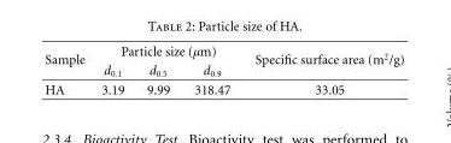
<table><thead><tr><td rowspan="2">Sample</td><td colspan="3">Particle size (μm)</td><td rowspan="2">Specific surface area (m<sup>2</sup>/g)</td></tr><tr><td>d<sub>0.1</sub></td><td>d<sub>0.5</sub></td><td>d<sub>0.9</sub></td></tr></thead><tbody><tr><td>HA</td><td>3.19</td><td>9.99</td><td>318.47</td><td>33.05</td></tr></tbody></table>